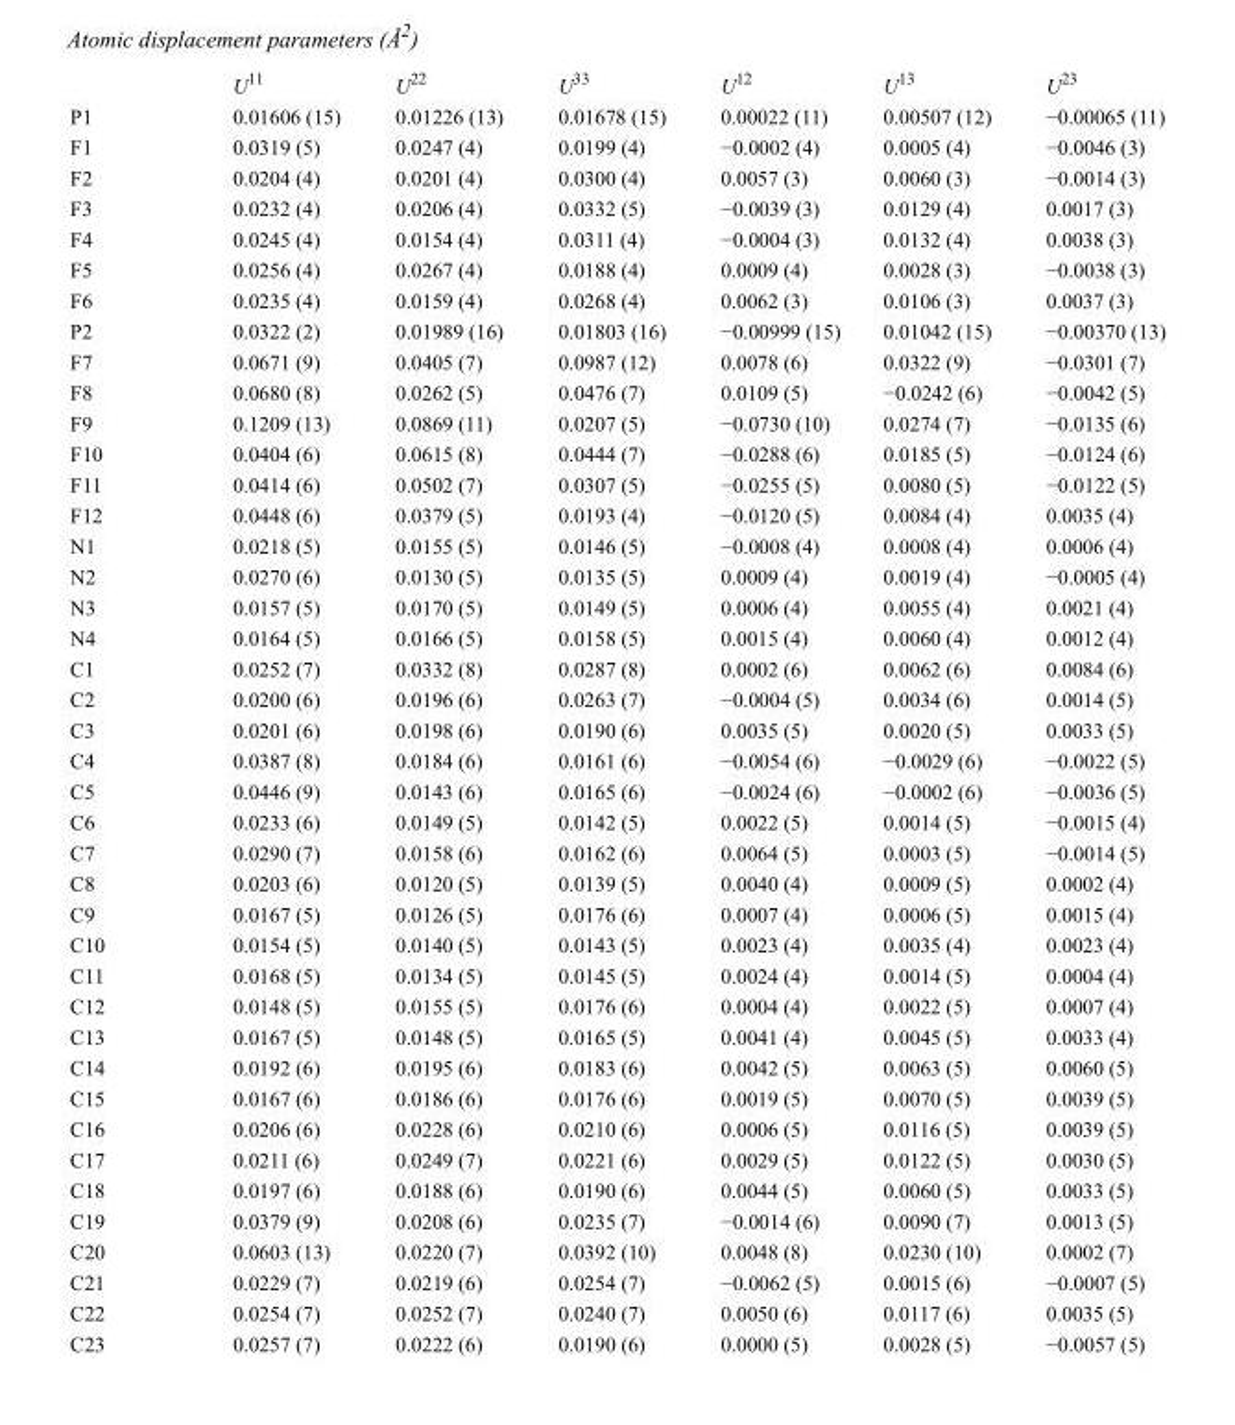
<table><thead><tr><td></td><td>U<sup>11</sup></td><td>U<sup>22</sup></td><td>U<sup>33</sup></td><td>U<sup>12</sup></td><td>U<sup>13</sup></td><td>U<sup>23</sup></td></tr></thead><tbody><tr><td>P1</td><td>0.01606 (15)</td><td>0.01226 (13)</td><td>0.01678 (15)</td><td>0.00022 (11)</td><td>0.00507 (12)</td><td>−0.00065 (11)</td></tr><tr><td>F1</td><td>0.0319 (5)</td><td>0.0247 (4)</td><td>0.0199 (4)</td><td>−0.0002 (4)</td><td>0.0005 (4)</td><td>−0.0046 (3)</td></tr><tr><td>F2</td><td>0.0204 (4)</td><td>0.0201 (4)</td><td>0.0300 (4)</td><td>0.0057 (3)</td><td>0.0060 (3)</td><td>−0.0014 (3)</td></tr><tr><td>F3</td><td>0.0232 (4)</td><td>0.0206 (4)</td><td>0.0332 (5)</td><td>−0.0039 (3)</td><td>0.0129 (4)</td><td>0.0017 (3)</td></tr><tr><td>F4</td><td>0.0245 (4)</td><td>0.0154 (4)</td><td>0.0311 (4)</td><td>−0.0004 (3)</td><td>0.0132 (4)</td><td>0.0038 (3)</td></tr><tr><td>F5</td><td>0.0256 (4)</td><td>0.0267 (4)</td><td>0.0188 (4)</td><td>0.0009 (4)</td><td>0.0028 (3)</td><td>−0.0038 (3)</td></tr><tr><td>F6</td><td>0.0235 (4)</td><td>0.0159 (4)</td><td>0.0268 (4)</td><td>0.0062 (3)</td><td>0.0106 (3)</td><td>0.0037 (3)</td></tr><tr><td>P2</td><td>0.0322 (2)</td><td>0.01989 (16)</td><td>0.01803 (16)</td><td>−0.00999 (15)</td><td>0.01042 (15)</td><td>−0.00370 (13)</td></tr><tr><td>F7</td><td>0.0671 (9)</td><td>0.0405 (7)</td><td>0.0987 (12)</td><td>0.0078 (6)</td><td>0.0322 (9)</td><td>−0.0301 (7)</td></tr><tr><td>F8</td><td>0.0680 (8)</td><td>0.0262 (5)</td><td>0.0476 (7)</td><td>0.0109 (5)</td><td>−0.0242 (6)</td><td>−0.0042 (5)</td></tr><tr><td>F9</td><td>0.1209 (13)</td><td>0.0869 (11)</td><td>0.0207 (5)</td><td>−0.0730 (10)</td><td>0.0274 (7)</td><td>−0.0135 (6)</td></tr><tr><td>F10</td><td>0.0404 (6)</td><td>0.0615 (8)</td><td>0.0444 (7)</td><td>−0.0288 (6)</td><td>0.0185 (5)</td><td>−0.0124 (6)</td></tr><tr><td>F11</td><td>0.0414 (6)</td><td>0.0502 (7)</td><td>0.0307 (5)</td><td>−0.0255 (5)</td><td>0.0080 (5)</td><td>−0.0122 (5)</td></tr><tr><td>F12</td><td>0.0448 (6)</td><td>0.0379 (5)</td><td>0.0193 (4)</td><td>−0.0120 (5)</td><td>0.0084 (4)</td><td>0.0035 (4)</td></tr><tr><td>N1</td><td>0.0218 (5)</td><td>0.0155 (5)</td><td>0.0146 (5)</td><td>−0.0008 (4)</td><td>0.0008 (4)</td><td>0.0006 (4)</td></tr><tr><td>N2</td><td>0.0270 (6)</td><td>0.0130 (5)</td><td>0.0135 (5)</td><td>0.0009 (4)</td><td>0.0019 (4)</td><td>−0.0005 (4)</td></tr><tr><td>N3</td><td>0.0157 (5)</td><td>0.0170 (5)</td><td>0.0149 (5)</td><td>0.0006 (4)</td><td>0.0055 (4)</td><td>0.0021 (4)</td></tr><tr><td>N4</td><td>0.0164 (5)</td><td>0.0166 (5)</td><td>0.0158 (5)</td><td>0.0015 (4)</td><td>0.0060 (4)</td><td>0.0012 (4)</td></tr><tr><td>C1</td><td>0.0252 (7)</td><td>0.0332 (8)</td><td>0.0287 (8)</td><td>0.0002 (6)</td><td>0.0062 (6)</td><td>0.0084 (6)</td></tr><tr><td>C2</td><td>0.0200 (6)</td><td>0.0196 (6)</td><td>0.0263 (7)</td><td>−0.0004 (5)</td><td>0.0034 (6)</td><td>0.0014 (5)</td></tr><tr><td>C3</td><td>0.0201 (6)</td><td>0.0198 (6)</td><td>0.0190 (6)</td><td>0.0035 (5)</td><td>0.0020 (5)</td><td>0.0033 (5)</td></tr><tr><td>C4</td><td>0.0387 (8)</td><td>0.0184 (6)</td><td>0.0161 (6)</td><td>−0.0054 (6)</td><td>−0.0029 (6)</td><td>−0.0022 (5)</td></tr><tr><td>C5</td><td>0.0446 (9)</td><td>0.0143 (6)</td><td>0.0165 (6)</td><td>−0.0024 (6)</td><td>−0.0002 (6)</td><td>−0.0036 (5)</td></tr><tr><td>C6</td><td>0.0233 (6)</td><td>0.0149 (5)</td><td>0.0142 (5)</td><td>0.0022 (5)</td><td>0.0014 (5)</td><td>−0.0015 (4)</td></tr><tr><td>C7</td><td>0.0290 (7)</td><td>0.0158 (6)</td><td>0.0162 (6)</td><td>0.0064 (5)</td><td>0.0003 (5)</td><td>−0.0014 (5)</td></tr><tr><td>C8</td><td>0.0203 (6)</td><td>0.0120 (5)</td><td>0.0139 (5)</td><td>0.0040 (4)</td><td>0.0009 (5)</td><td>0.0002 (4)</td></tr><tr><td>C9</td><td>0.0167 (5)</td><td>0.0126 (5)</td><td>0.0176 (6)</td><td>0.0007 (4)</td><td>0.0006 (5)</td><td>0.0015 (4)</td></tr><tr><td>C10</td><td>0.0154 (5)</td><td>0.0140 (5)</td><td>0.0143 (5)</td><td>0.0023 (4)</td><td>0.0035 (4)</td><td>0.0023 (4)</td></tr><tr><td>C11</td><td>0.0168 (5)</td><td>0.0134 (5)</td><td>0.0145 (5)</td><td>0.0024 (4)</td><td>0.0014 (5)</td><td>0.0004 (4)</td></tr><tr><td>C12</td><td>0.0148 (5)</td><td>0.0155 (5)</td><td>0.0176 (6)</td><td>0.0004 (4)</td><td>0.0022 (5)</td><td>0.0007 (4)</td></tr><tr><td>C13</td><td>0.0167 (5)</td><td>0.0148 (5)</td><td>0.0165 (5)</td><td>0.0041 (4)</td><td>0.0045 (5)</td><td>0.0033 (4)</td></tr><tr><td>C14</td><td>0.0192 (6)</td><td>0.0195 (6)</td><td>0.0183 (6)</td><td>0.0042 (5)</td><td>0.0063 (5)</td><td>0.0060 (5)</td></tr><tr><td>C15</td><td>0.0167 (6)</td><td>0.0186 (6)</td><td>0.0176 (6)</td><td>0.0019 (5)</td><td>0.0070 (5)</td><td>0.0039 (5)</td></tr><tr><td>C16</td><td>0.0206 (6)</td><td>0.0228 (6)</td><td>0.0210 (6)</td><td>0.0006 (5)</td><td>0.0116 (5)</td><td>0.0039 (5)</td></tr><tr><td>C17</td><td>0.0211 (6)</td><td>0.0249 (7)</td><td>0.0221 (6)</td><td>0.0029 (5)</td><td>0.0122 (5)</td><td>0.0030 (5)</td></tr><tr><td>C18</td><td>0.0197 (6)</td><td>0.0188 (6)</td><td>0.0190 (6)</td><td>0.0044 (5)</td><td>0.0060 (5)</td><td>0.0033 (5)</td></tr><tr><td>C19</td><td>0.0379 (9)</td><td>0.0208 (6)</td><td>0.0235 (7)</td><td>−0.0014 (6)</td><td>0.0090 (7)</td><td>0.0013 (5)</td></tr><tr><td>C20</td><td>0.0603 (13)</td><td>0.0220 (7)</td><td>0.0392 (10)</td><td>0.0048 (8)</td><td>0.0230 (10)</td><td>0.0002 (7)</td></tr><tr><td>C21</td><td>0.0229 (7)</td><td>0.0219 (6)</td><td>0.0254 (7)</td><td>−0.0062 (5)</td><td>0.0015 (6)</td><td>−0.0007 (5)</td></tr><tr><td>C22</td><td>0.0254 (7)</td><td>0.0252 (7)</td><td>0.0240 (7)</td><td>0.0050 (6)</td><td>0.0117 (6)</td><td>0.0035 (5)</td></tr><tr><td>C23</td><td>0.0257 (7)</td><td>0.0222 (6)</td><td>0.0190 (6)</td><td>0.0000 (5)</td><td>0.0028 (5)</td><td>−0.0057 (5)</td></tr></tbody></table>